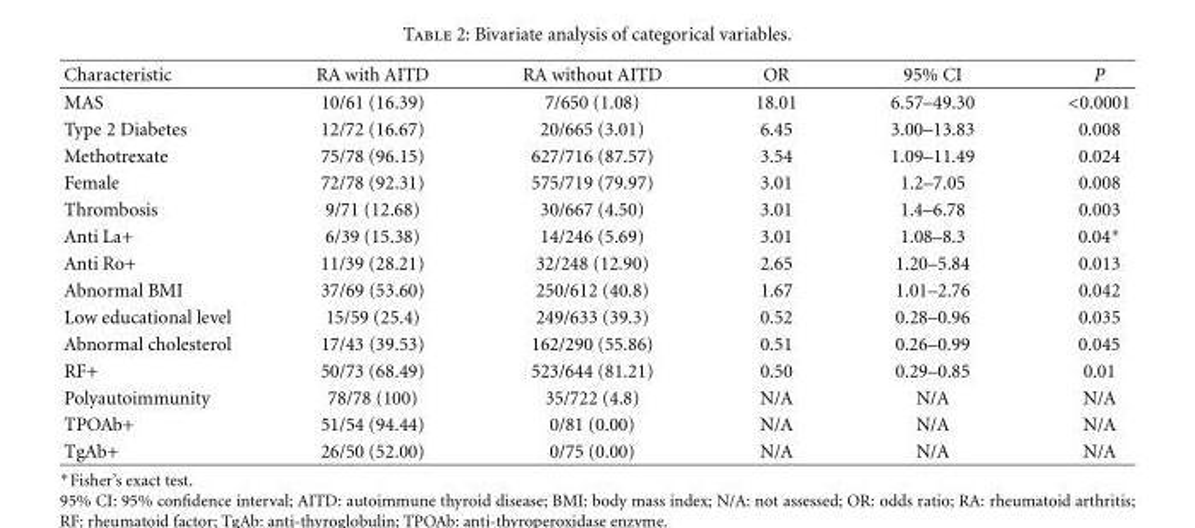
<table><thead><tr><td>Characteristic</td><td>RA with AITD</td><td>RA without AITD</td><td>OR</td><td>95% CI</td><td>P</td></tr></thead><tbody><tr><td>MAS</td><td>10/61 (16.39)</td><td>7/650 (1.08)</td><td>18.01</td><td>6.57–49.30</td><td>&lt;0.0001</td></tr><tr><td>Type 2 Diabetes</td><td>12/72 (16.67)</td><td>20/665 (3.01)</td><td>6.45</td><td>3.00–13.83</td><td>0.008</td></tr><tr><td>Methotrexate</td><td>75/78 (96.15)</td><td>627/716 (87.57)</td><td>3.54</td><td>1.09–11.49</td><td>0.024</td></tr><tr><td>Female</td><td>72/78 (92.31)</td><td>575/719 (79.97)</td><td>3.01</td><td>1.2–7.05</td><td>0.008</td></tr><tr><td>Thrombosis</td><td>9/71 (12.68)</td><td>30/667 (4.50)</td><td>3.01</td><td>1.4–6.78</td><td>0.003</td></tr><tr><td>Anti La+</td><td>6/39 (15.38)</td><td>14/246 (5.69)</td><td>3.01</td><td>1.08–8.3</td><td>0.04∗</td></tr><tr><td>Anti Ro+</td><td>11/39 (28.21)</td><td>32/248 (12.90)</td><td>2.65</td><td>1.20–5.84</td><td>0.013</td></tr><tr><td>Abnormal BMI</td><td>37/69 (53.60)</td><td>250/612 (40.8)</td><td>1.67</td><td>1.01–2.76</td><td>0.042</td></tr><tr><td>Low educational level</td><td>15/59 (25.4)</td><td>249/633 (39.3)</td><td>0.52</td><td>0.28–0.96</td><td>0.035</td></tr><tr><td>Abnormal cholesterol</td><td>17/43 (39.53)</td><td>162/290 (55.86)</td><td>0.51</td><td>0.26–0.99</td><td>0.045</td></tr><tr><td>RF+</td><td>50/73 (68.49)</td><td>523/644 (81.21)</td><td>0.50</td><td>0.29–0.85</td><td>0.01</td></tr><tr><td>Polyautoimmunity</td><td>78/78 (100)</td><td>35/722 (4.8)</td><td>N/A</td><td>N/A</td><td>N/A</td></tr><tr><td>TPOAb+</td><td>51/54 (94.44)</td><td>0/81 (0.00)</td><td>N/A</td><td>N/A</td><td>N/A</td></tr><tr><td>TgAb+</td><td>26/50 (52.00)</td><td>0/75 (0.00)</td><td>N/A</td><td>N/A</td><td>N/A</td></tr></tbody></table>